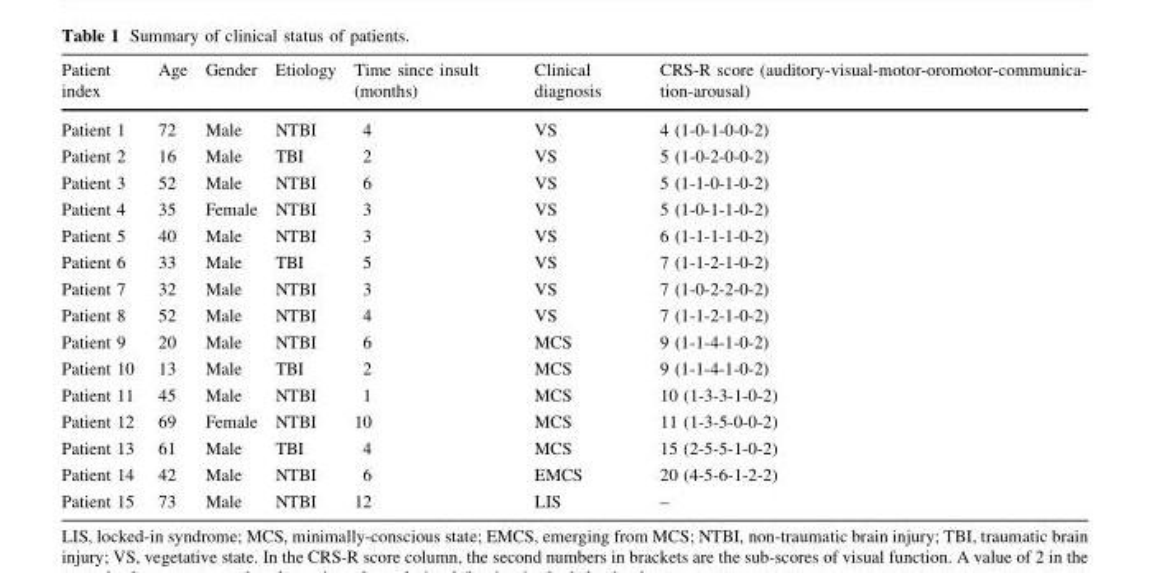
<table><thead><tr><td>Patient index</td><td>Age</td><td>Gender</td><td>Etiology</td><td>Time since insult (months)</td><td>Clinical diagnosis</td><td>CRS-R score (auditory-visual-motor-oromotor-communica- tion-arousal)</td></tr></thead><tbody><tr><td>Patient 1</td><td>72</td><td>Male</td><td>NTBI</td><td>4</td><td>VS</td><td>4 (1-0-1-0-0-2)</td></tr><tr><td>Patient 2</td><td>16</td><td>Male</td><td>TBI</td><td>2</td><td>VS</td><td>5 (1-0-2-0-0-2)</td></tr><tr><td>Patient 3</td><td>52</td><td>Male</td><td>NTBI</td><td>6</td><td>VS</td><td>5 (1-1-0-1-0-2)</td></tr><tr><td>Patient 4</td><td>35</td><td>Female</td><td>NTBI</td><td>3</td><td>VS</td><td>5 (1-0-1-1-0-2)</td></tr><tr><td>Patient 5</td><td>40</td><td>Male</td><td>NTBI</td><td>3</td><td>VS</td><td>6 (1-1-1-1-0-2)</td></tr><tr><td>Patient 6</td><td>33</td><td>Male</td><td>TBI</td><td>5</td><td>VS</td><td>7 (1-1-2-1-0-2)</td></tr><tr><td>Patient 7</td><td>32</td><td>Male</td><td>NTBI</td><td>3</td><td>VS</td><td>7 (1-0-2-2-0-2)</td></tr><tr><td>Patient 8</td><td>52</td><td>Male</td><td>NTBI</td><td>4</td><td>VS</td><td>7 (1-1-2-1-0-2)</td></tr><tr><td>Patient 9</td><td>20</td><td>Male</td><td>NTBI</td><td>6</td><td>MCS</td><td>9 (1-1-4-1-0-2)</td></tr><tr><td>Patient 10</td><td>13</td><td>Male</td><td>TBI</td><td>2</td><td>MCS</td><td>9 (1-1-4-1-0-2)</td></tr><tr><td>Patient 11</td><td>45</td><td>Male</td><td>NTBI</td><td>1</td><td>MCS</td><td>10 (1-3-3-1-0-2)</td></tr><tr><td>Patient 12</td><td>69</td><td>Female</td><td>NTBI</td><td>10</td><td>MCS</td><td>11 (1-3-5-0-0-2)</td></tr><tr><td>Patient 13</td><td>61</td><td>Male</td><td>TBI</td><td>4</td><td>MCS</td><td>15 (2-5-5-1-0-2)</td></tr><tr><td>Patient 14</td><td>42</td><td>Male</td><td>NTBI</td><td>6</td><td>EMCS</td><td>20 (4-5-6-1-2-2)</td></tr><tr><td>Patient 15</td><td>73</td><td>Male</td><td>NTBI</td><td>12</td><td>LIS</td><td>–</td></tr></tbody></table>